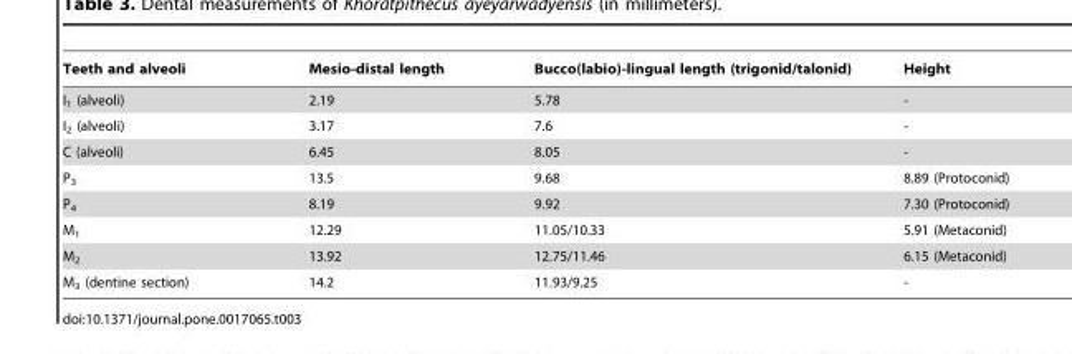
<table><thead><tr><td>Teeth and alveoli</td><td>Mesio-distal length</td><td>Bucco(labio)-lingual length (trigonid/talonid)</td><td>Height</td></tr></thead><tbody><tr><td>I<sub>1</sub> (alveoli)</td><td>2.19</td><td>5.78</td><td>-</td></tr><tr><td>I<sub>2</sub> (alveoli)</td><td>3.17</td><td>7.6</td><td>-</td></tr><tr><td>C (alveoli)</td><td>6.45</td><td>8.05</td><td>-</td></tr><tr><td>P<sub>3</sub></td><td>13.5</td><td>9.68</td><td>8.89 (Protoconid)</td></tr><tr><td>P<sub>4</sub></td><td>8.19</td><td>9.92</td><td>7.30 (Protoconid)</td></tr><tr><td>M<sub>1</sub></td><td>12.29</td><td>11.05/10.33</td><td>5.91 (Metaconid)</td></tr><tr><td>M<sub>2</sub></td><td>13.92</td><td>12.75/11.46</td><td>6.15 (Metaconid)</td></tr><tr><td>M<sub>3</sub> (dentine section)</td><td>14.2</td><td>11.93/9.25</td><td>-</td></tr></tbody></table>